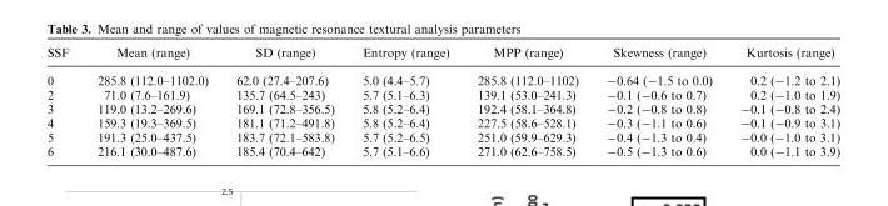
<table><thead><tr><td>SSF</td><td>Mean (range)</td><td>SD (range)</td><td>Entropy (range)</td><td>MPP (range)</td><td>Skewness (range)</td><td>Kurtosis (range)</td></tr></thead><tbody><tr><td>0</td><td>285.8 (112.0–1102.0)</td><td>62.0 (27.4–207.6)</td><td>5.0 (4.4–5.7)</td><td>285.8 (112.0–1102)</td><td>-0.64 (-1.5 to 0.0)</td><td>0.2 (-1.2 to 2.1)</td></tr><tr><td>2</td><td>71.0 (7.6–161.9)</td><td>135.7 (64.5–243)</td><td>5.7 (5.1–6.3)</td><td>139.1 (53.0–241.3)</td><td>-0.1 (-0.6 to 0.7)</td><td>0.2 (-1.0 to 1.9)</td></tr><tr><td>3</td><td>119.0 (13.2–269.6)</td><td>169.1 (72.8–356.5)</td><td>5.8 (5.2–6.4)</td><td>192.4 (58.1–364.8)</td><td>-0.2 (-0.8 to 0.8)</td><td>-0.1 (-0.8 to 2.4)</td></tr><tr><td>4</td><td>159.3 (19.3–369.5)</td><td>181.1 (71.2–491.8)</td><td>5.8 (5.2–6.4)</td><td>227.5 (58.6–528.1)</td><td>-0.3 (-1.1 to 0.6)</td><td>-0.1 (-0.9 to 3.1)</td></tr><tr><td>5</td><td>191.3 (25.0–437.5)</td><td>183.7 (72.1–583.8)</td><td>5.7 (5.2–6.5)</td><td>251.0 (59.9–629.3)</td><td>-0.4 (-1.3 to 0.4)</td><td>-0.0 (-1.0 to 3.1)</td></tr><tr><td>6</td><td>216.1 (30.0–487.6)</td><td>185.4 (70.4–642)</td><td>5.7 (5.1–6.6)</td><td>271.0 (62.6–758.5)</td><td>-0.5 (-1.3 to 0.6)</td><td>0.0 (-1.1 to 3.9)</td></tr></tbody></table>